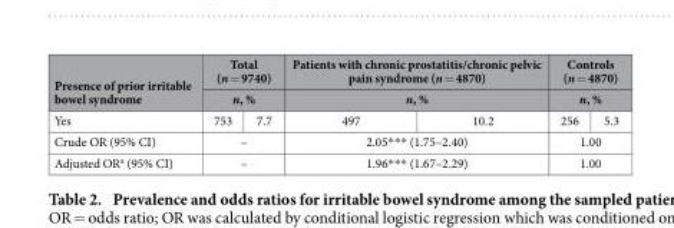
<table><thead><tr><td rowspan="3">Presence of prior irritable bowel syndrome Yes</td><td rowspan="2" colspan="2">Total (n = 9740) n, %</td><td rowspan="2" colspan="2">Patients with chronic prostatitis/chronic pelvic pain syndrome (n = 4870) n, %</td><td rowspan="2" colspan="2">Controls (n = 4870) n, %</td></tr><tr></tr><tr><td>753</td><td>7.7</td><td>497</td><td>10.2</td><td>256</td><td>5.3</td></tr></thead><tbody><tr><td>Crude OR (95% CI)</td><td colspan="2">–</td><td colspan="2">2.05* * * (1.75–2.40)</td><td colspan="2">1.00</td></tr><tr><td>Adjusted OR<sup>a</sup> (95% CI)</td><td colspan="2">–</td><td colspan="2">1.96* * * (1.67–2.29)</td><td colspan="2">1.00</td></tr></tbody></table>